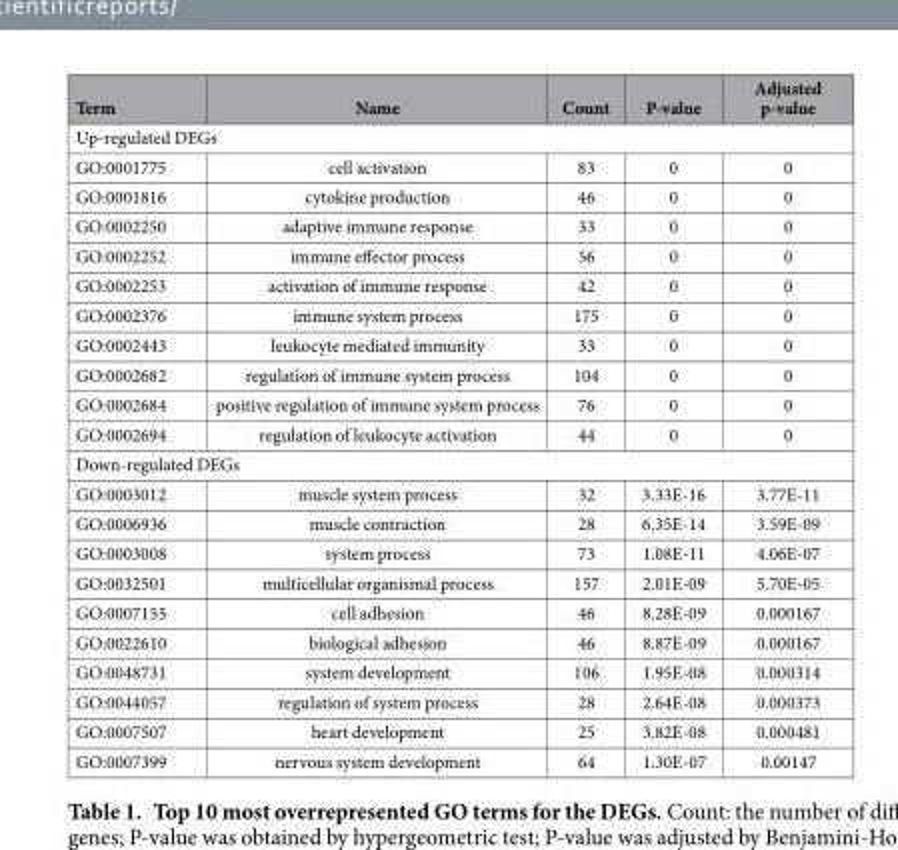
<table><thead><tr><td>Term</td><td>Name</td><td>Count</td><td>P-value</td><td>Adjusted p-value</td></tr></thead><tbody><tr><td colspan="5">Up-regulated DEGs</td></tr><tr><td>GO:0001775</td><td>cell activation</td><td>83</td><td>0</td><td>0</td></tr><tr><td>GO:0001816</td><td>cytokine production</td><td>46</td><td>0</td><td>0</td></tr><tr><td>GO:0002250</td><td>adaptive immune response</td><td>33</td><td>0</td><td>0</td></tr><tr><td>GO:0002252</td><td>immune effector process</td><td>56</td><td>0</td><td>0</td></tr><tr><td>GO:0002253</td><td>activation of immune response</td><td>42</td><td>0</td><td>0</td></tr><tr><td>GO:0002376</td><td>immune system process</td><td>175</td><td>0</td><td>0</td></tr><tr><td>GO:0002443</td><td>leukocyte mediated immunity</td><td>33</td><td>0</td><td>0</td></tr><tr><td>GO:0002682</td><td>regulation of immune system process</td><td>104</td><td>0</td><td>0</td></tr><tr><td>GO:0002684</td><td>positive regulation of immune system process</td><td>76</td><td>0</td><td>0</td></tr><tr><td>GO:0002694</td><td>regulation of leukocyte activation</td><td>44</td><td>0</td><td>0</td></tr><tr><td colspan="5">Down-regulated DEGs</td></tr><tr><td>GO:0003012</td><td>muscle system process</td><td>32</td><td>3.33E-16</td><td>3.77E-11</td></tr><tr><td>GO:0006936</td><td>muscle contraction</td><td>28</td><td>6.35E-14</td><td>3.59E-09</td></tr><tr><td>GO:0003008</td><td>system process</td><td>73</td><td>1.08E-11</td><td>4.06E-07</td></tr><tr><td>GO:0032501</td><td>multicellular organismal process</td><td>157</td><td>2.01E-09</td><td>5.70E-05</td></tr><tr><td>GO:0007155</td><td>cell adhesion</td><td>46</td><td>8.28E-09</td><td>0.000167</td></tr><tr><td>GO:0022610</td><td>biological adhesion</td><td>46</td><td>8.87E-09</td><td>0.000167</td></tr><tr><td>GO:0048731</td><td>system development</td><td>106</td><td>1.95E-08</td><td>0.000314</td></tr><tr><td>GO:0044057</td><td>regulation of system process</td><td>28</td><td>2.64E-08</td><td>0.000373</td></tr><tr><td>GO:0007507</td><td>heart development</td><td>25</td><td>3.82E-08</td><td>0.000481</td></tr><tr><td>GO:0007399</td><td>nervous system development</td><td>64</td><td>1.30E-07</td><td>0.00147</td></tr></tbody></table>